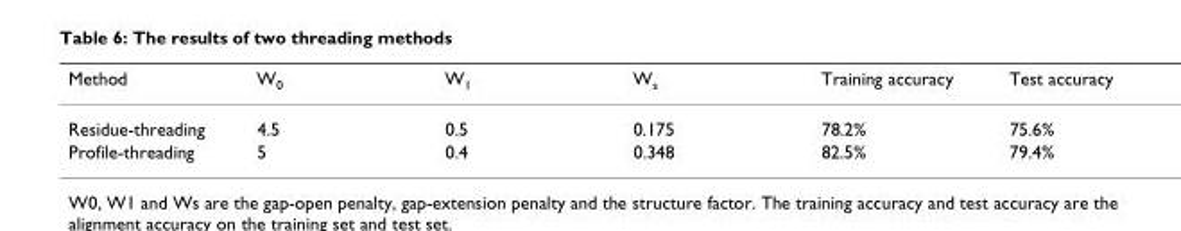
<table><thead><tr><td>Method</td><td>W0</td><td>W1</td><td>Ws</td><td>Training accuracy</td><td>Test accuracy</td></tr></thead><tbody><tr><td>Residue-threading</td><td>4.5</td><td>0.5</td><td>0.175</td><td>78.2%</td><td>75.6%</td></tr><tr><td>Profile-threading</td><td>5</td><td>0.4</td><td>0.348</td><td>82.5%</td><td>79.4%</td></tr></tbody></table>